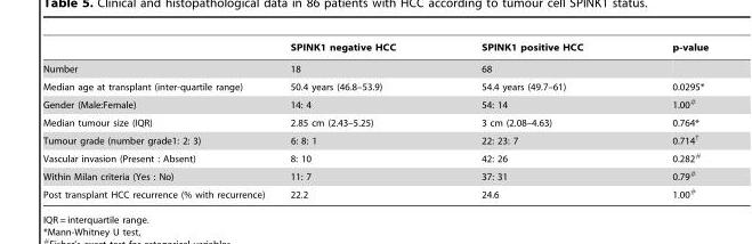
<table><thead><tr><td></td><td>SPINK1 negative HCC</td><td>SPINK1 positive HCC</td><td>p-value</td></tr></thead><tbody><tr><td>Number</td><td>18</td><td>68</td><td></td></tr><tr><td>Median age at transplant (inter-quartile range)</td><td>50.4 years (46.8–53.9)</td><td>54.4 years (49.7–61)</td><td>0.0295*</td></tr><tr><td>Gender (Male:Female)</td><td>14: 4</td><td>54: 14</td><td>1.00#</td></tr><tr><td>Median tumour size (IQR)</td><td>2.85 cm (2.43–5.25)</td><td>3 cm (2.08–4.63)</td><td>0.764*</td></tr><tr><td>Tumour grade (number grade1: 2: 3)</td><td>6: 8: 1</td><td>22: 23: 7</td><td>0.714†</td></tr><tr><td>Vascular invasion (Present : Absent)</td><td>8: 10</td><td>42: 26</td><td>0.282#</td></tr><tr><td>Within Milan criteria (Yes : No)</td><td>11: 7</td><td>37: 31</td><td>0.79#</td></tr><tr><td>Post transplant HCC recurrence (% with recurrence)</td><td>22.2</td><td>24.6</td><td>1.00#</td></tr></tbody></table>